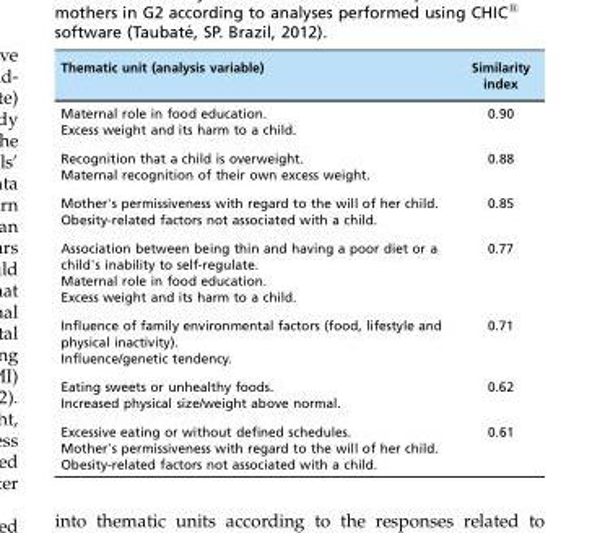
<table><thead><tr><td>Thematic unit (analysis variable)</td><td>Similarity index</td></tr></thead><tbody><tr><td>Maternal role in food education.</td><td rowspan="2">0.90</td></tr><tr><td>Excess weight and its harm to a child.</td></tr><tr><td>Recognition that a child is overweight.</td><td rowspan="2">0.88</td></tr><tr><td>Maternal recognition of their own excess weight.</td></tr><tr><td>Mother’s permissiveness with regard to the will of her child.</td><td rowspan="2">0.85</td></tr><tr><td>Obesity-related factors not associated with a child.</td></tr><tr><td>Association between being thin and having a poor diet or a child’s inability to self-regulate.</td><td rowspan="3">0.77</td></tr><tr><td>Maternal role in food education.</td></tr><tr><td>Excess weight and its harm to a child.</td></tr><tr><td>Influence of family environmental factors (food, lifestyle and physical inactivity).</td><td rowspan="2">0.71</td></tr><tr><td>Influence/genetic tendency.</td></tr><tr><td>Eating sweets or unhealthy foods.</td><td rowspan="2">0.62</td></tr><tr><td>Increased physical size/weight above normal.</td></tr><tr><td>Excessive eating or without defined schedules.</td><td rowspan="3">0.61</td></tr><tr><td>Mother’s permissiveness with regard to the will of her child.</td></tr><tr><td>Obesity-related factors not associated with a child.</td></tr></tbody></table>